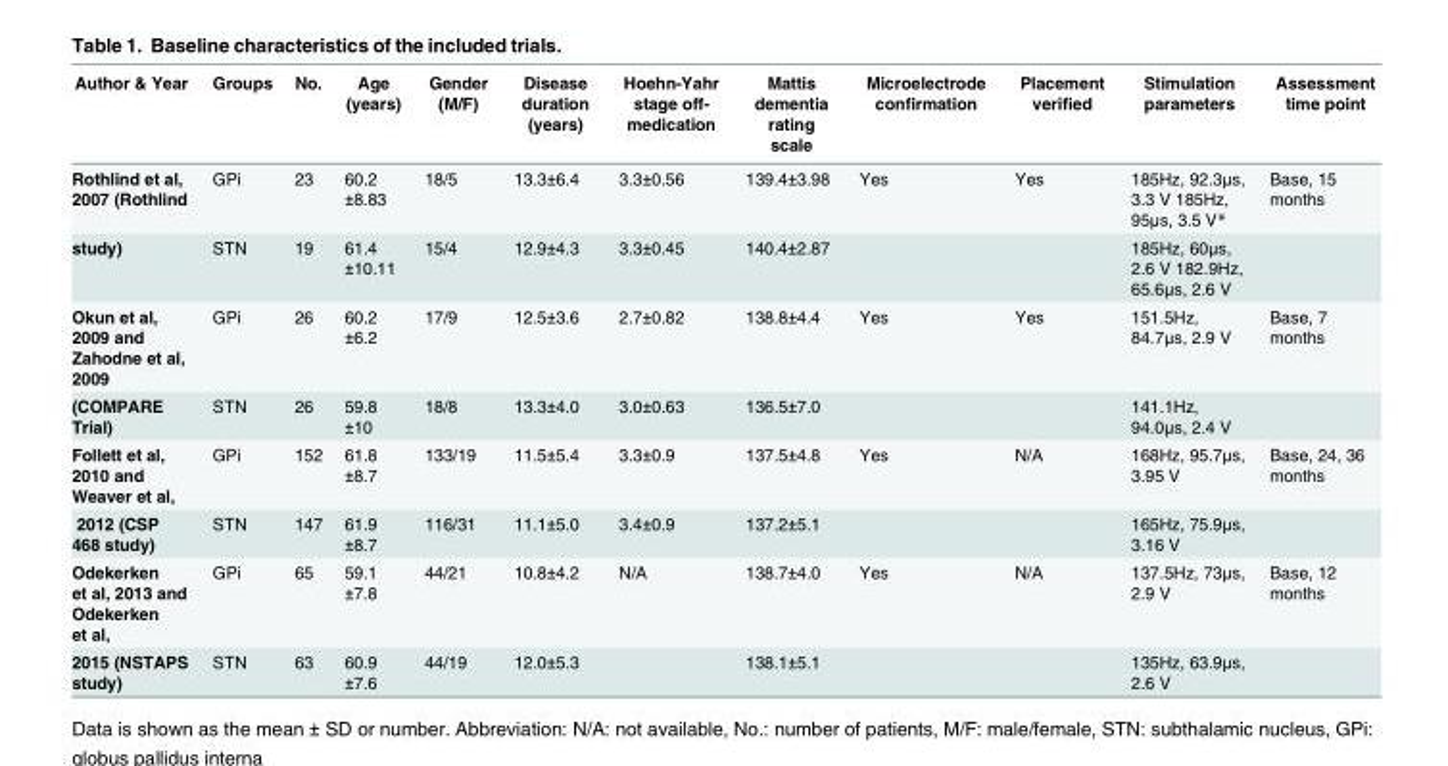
<table><thead><tr><td>Author &amp; Year</td><td>Groups</td><td>No.</td><td>Age (years)</td><td>Gender (M/F)</td><td>Disease duration (years)</td><td>Hoehn-Yahr stage off- medication</td><td>Mattis dementia rating scale</td><td>Microelectrode confirmation</td><td>Placement verified</td><td>Stimulation parameters</td><td>Assessment time point</td></tr></thead><tbody><tr><td>Rothlind et al, 2007 (Rothlind</td><td>GPi</td><td>23</td><td>60.2 ±8.83</td><td>18/5</td><td>13.3±6.4</td><td>3.3±0.56</td><td>139.4±3.98</td><td>Yes</td><td>Yes</td><td>185Hz, 92.3μs, 3.3 V 185Hz, 95μs, 3.5 V*</td><td>Base, 15 months</td></tr><tr><td>study)</td><td>STN</td><td>19</td><td>61.4 ±10.11</td><td>15/4</td><td>12.9±4.3</td><td>3.3±0.45</td><td>140.4±2.87</td><td></td><td></td><td>185Hz, 60μs, 2.6 V 182.9Hz, 65.6μs, 2.6 V</td><td></td></tr><tr><td>Okun et al, 2009 and Zahodne et al, 2009</td><td>GPi</td><td>26</td><td>60.2 ±6.2</td><td>17/9</td><td>12.5±3.6</td><td>2.7±0.82</td><td>138.8±4.4</td><td>Yes</td><td>Yes</td><td>151.5Hz, 84.7μs, 2.9 V</td><td>Base, 7 months</td></tr><tr><td>(COMPARE Trial)</td><td>STN</td><td>26</td><td>59.8 ±10</td><td>18/8</td><td>13.3±4.0</td><td>3.0±0.63</td><td>136.5±7.0</td><td></td><td></td><td>141.1Hz, 94.0μs, 2.4 V</td><td></td></tr><tr><td>Follett et al, 2010 and Weaver et al,</td><td>GPi</td><td>152</td><td>61.8 ±8.7</td><td>133/19</td><td>11.5±5.4</td><td>3.3±0.9</td><td>137.5±4.8</td><td>Yes</td><td>N/A</td><td>168Hz, 95.7μs, 3.95 V</td><td>Base, 24, 36 months</td></tr><tr><td>2012 (CSP 468 study)</td><td>STN</td><td>147</td><td>61.9 ±8.7</td><td>116/31</td><td>11.1±5.0</td><td>3.4±0.9</td><td>137.2±5.1</td><td></td><td></td><td>165Hz, 75.9μs, 3.16 V</td><td></td></tr><tr><td>Odekerken et al, 2013 and Odekerken et al,</td><td>GPi</td><td>65</td><td>59.1 ±7.8</td><td>44/21</td><td>10.8±4.2</td><td>N/A</td><td>138.7±4.0</td><td>Yes</td><td>N/A</td><td>137.5Hz, 73μs, 2.9 V</td><td>Base, 12 months</td></tr><tr><td>2015 (NSTAPS study)</td><td>STN</td><td>63</td><td>60.9 ±7.6</td><td>44/19</td><td>12.0±5.3</td><td></td><td>138.1±5.1</td><td></td><td></td><td>135Hz, 63.9μs, 2.6 V</td><td></td></tr></tbody></table>